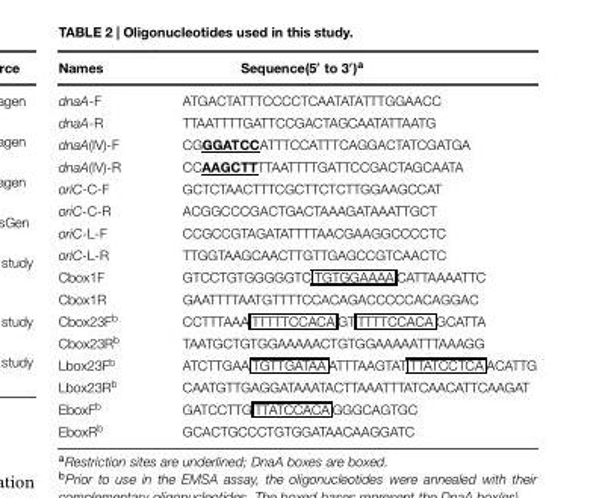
<table><thead><tr><td>Names</td><td>Sequence(5′ to 3′)<sup>a</sup></td></tr></thead><tbody><tr><td>dnaA-F</td><td>ATGACTATTTCCCCTCAATATATTTGGAACC</td></tr><tr><td>dnaA-R</td><td>TTAATTTTGATTCCGACTAGCAATATTAATG</td></tr><tr><td>dnaA(IV)-F</td><td>CGGGATCCATTTCCATTTCAGGACTATCGATGA</td></tr><tr><td>dnaA(IV)-R</td><td>CCAAGCTTTTAATTTTGATTCCGACTAGCAATA</td></tr><tr><td>oriC-C-F</td><td>GCTCTAACTTTCGCTTCTCTTGGAAGCCAT</td></tr><tr><td>oriC-C-R</td><td>ACGGCCCGACTGACTAAAGATAAATTGCT</td></tr><tr><td>oriC-L-F</td><td>CCGCCGTAGATATTTTAACGAAGGCCCCTC</td></tr><tr><td>oriC-L-R</td><td>TTGGTAAGCAACTTGTTGAGCCGTCAACTC</td></tr><tr><td>Cbox1F</td><td>GTCCTGTGGGGGTC TGTGGAAAA CATTAAAATTC</td></tr><tr><td>Cbox1R</td><td>GAATTTTAATGTTTTCCACAGACCCCCACAGGAC</td></tr><tr><td>Cbox23F<sup>b</sup></td><td>CCTTTAAA TTTTTCCACA GT TTTTCCACA GCATTA</td></tr><tr><td>Cbox23R<sup>b</sup></td><td>TAATGCTGTGGAAAAACTGTGGAAAAATTTAAAGG</td></tr><tr><td>Lbox23F<sup>b</sup></td><td>ATCTTGAA TGTTGATAA ATTTAAGTAT TTATCCTCA ACATTG</td></tr><tr><td>Lbox23R<sup>b</sup></td><td>CAATGTTGAGGATAAATACTTAAATTTATCAACATTCAAGAT</td></tr><tr><td>EboxF<sup>b</sup></td><td>GATCCTTG TTATCCACA GGGCAGTGC</td></tr><tr><td>EboxR<sup>b</sup></td><td>GCACTGCCCTGTGGATAACAAGGATC</td></tr></tbody></table>